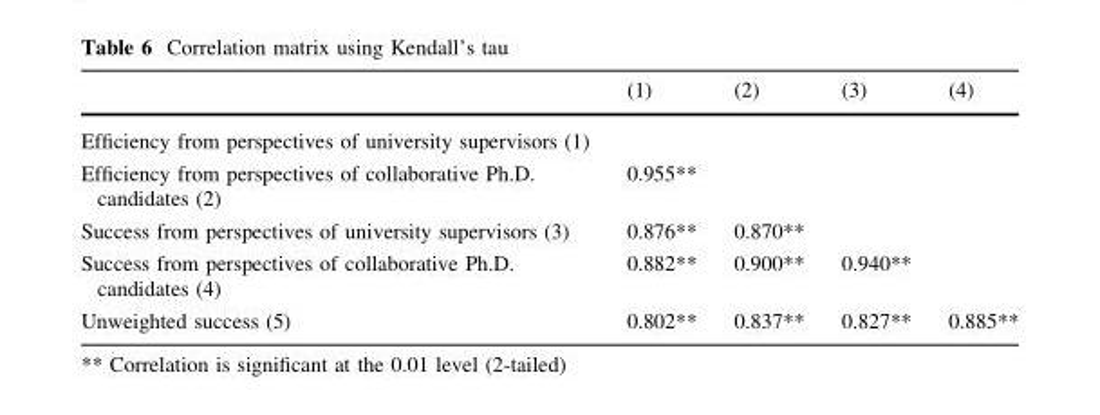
<table><thead><tr><td></td><td>(1)</td><td>(2)</td><td>(3)</td><td>(4)</td></tr></thead><tbody><tr><td colspan="5">Efficiency from perspectives of university supervisors (1)</td></tr><tr><td>Efficiency from perspectives of collaborative Ph.D. candidates (2)</td><td>0.955**</td><td></td><td></td><td></td></tr><tr><td>Success from perspectives of university supervisors (3)</td><td>0.876**</td><td>0.870**</td><td></td><td></td></tr><tr><td>Success from perspectives of collaborative Ph.D. candidates (4)</td><td>0.882**</td><td>0.900**</td><td>0.940**</td><td></td></tr><tr><td>Unweighted success (5)</td><td>0.802**</td><td>0.837**</td><td>0.827**</td><td>0.885**</td></tr></tbody></table>